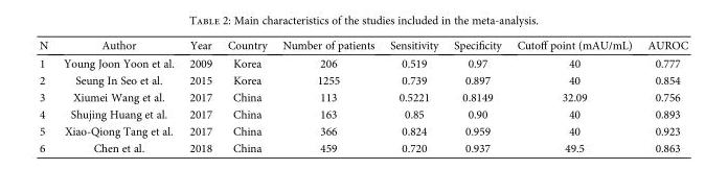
<table><thead><tr><td>N</td><td>Author</td><td>Year</td><td>Country</td><td>Number of patients</td><td>Sensitivity</td><td>Specificity</td><td>Cutoff point (mAU/mL)</td><td>AUROC</td></tr></thead><tbody><tr><td>1</td><td>Young Joon Yoon et al.</td><td>2009</td><td>Korea</td><td>206</td><td>0.519</td><td>0.97</td><td>40</td><td>0.777</td></tr><tr><td>2</td><td>Seung In Seo et al.</td><td>2015</td><td>Korea</td><td>1255</td><td>0.739</td><td>0.897</td><td>40</td><td>0.854</td></tr><tr><td>3</td><td>Xiumei Wang et al.</td><td>2017</td><td>China</td><td>113</td><td>0.5221</td><td>0.8149</td><td>32.09</td><td>0.756</td></tr><tr><td>4</td><td>Shujing Huang et al.</td><td>2017</td><td>China</td><td>163</td><td>0.85</td><td>0.90</td><td>40</td><td>0.893</td></tr><tr><td>5</td><td>Xiao-Qiong Tang et al.</td><td>2017</td><td>China</td><td>366</td><td>0.824</td><td>0.959</td><td>40</td><td>0.923</td></tr><tr><td>6</td><td>Chen et al.</td><td>2018</td><td>China</td><td>459</td><td>0.720</td><td>0.937</td><td>49.5</td><td>0.863</td></tr></tbody></table>